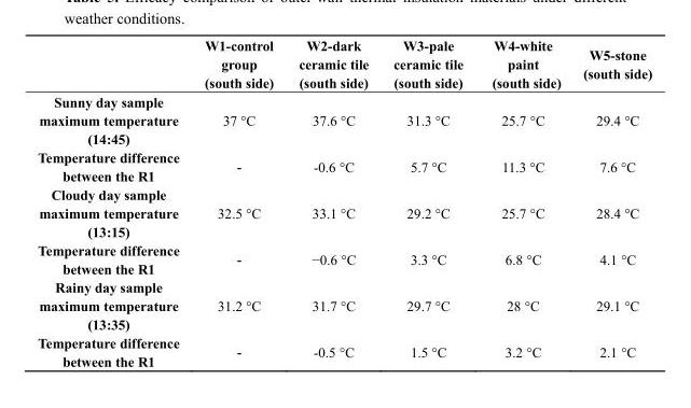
<table><thead><tr><td></td><td>W1-control group (south side)</td><td>W2-dark ceramic tile (south side)</td><td>W3-pale ceramic tile (south side)</td><td>W4-white paint (south side)</td><td>W5-stone (south side)</td></tr></thead><tbody><tr><td>Sunny day sample maximum temperature (14:45)</td><td>37 °C</td><td>37.6 °C</td><td>31.3 °C</td><td>25.7 °C</td><td>29.4 °C</td></tr><tr><td>Temperature difference between the R1</td><td>－</td><td>-0.6 °C</td><td>5.7 °C</td><td>11.3 °C</td><td>7.6 °C</td></tr><tr><td>Cloudy day sample maximum temperature (13:15)</td><td>32.5 °C</td><td>33.1 °C</td><td>29.2 °C</td><td>25.7 °C</td><td>28.4 °C</td></tr><tr><td>Temperature difference between the R1</td><td>－</td><td>−0.6 °C</td><td>3.3 °C</td><td>6.8 °C</td><td>4.1 °C</td></tr><tr><td>Rainy day sample maximum temperature (13:35)</td><td>31.2 °C</td><td>31.7 °C</td><td>29.7 °C</td><td>28 °C</td><td>29.1 °C</td></tr><tr><td>Temperature difference between the R1</td><td>－</td><td>-0.5 °C</td><td>1.5 °C</td><td>3.2 °C</td><td>2.1 °C</td></tr></tbody></table>